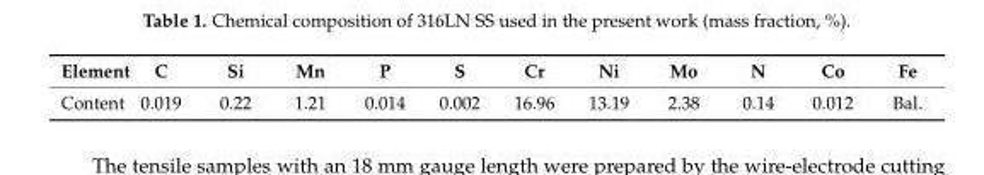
<table><thead><tr><td>Element</td><td>C</td><td>Si</td><td>Mn</td><td>P</td><td>S</td><td>Cr</td><td>Ni</td><td>Mo</td><td>N</td><td>Co</td><td>Fe</td></tr></thead><tbody><tr><td>Content</td><td>0.019</td><td>0.22</td><td>1.21</td><td>0.014</td><td>0.002</td><td>16.96</td><td>13.19</td><td>2.38</td><td>0.14</td><td>0.012</td><td>Bal.</td></tr></tbody></table>